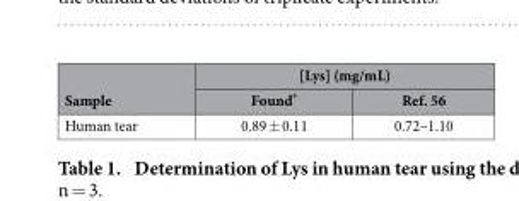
<table><thead><tr><td rowspan="2">Sample</td><td colspan="2">[Lys] (mg/mL)</td></tr><tr><td>Found*</td><td>Ref. 56</td></tr></thead><tbody><tr><td>Human tear</td><td>0.89 ± 0.11</td><td>0.72–1.10</td></tr></tbody></table>